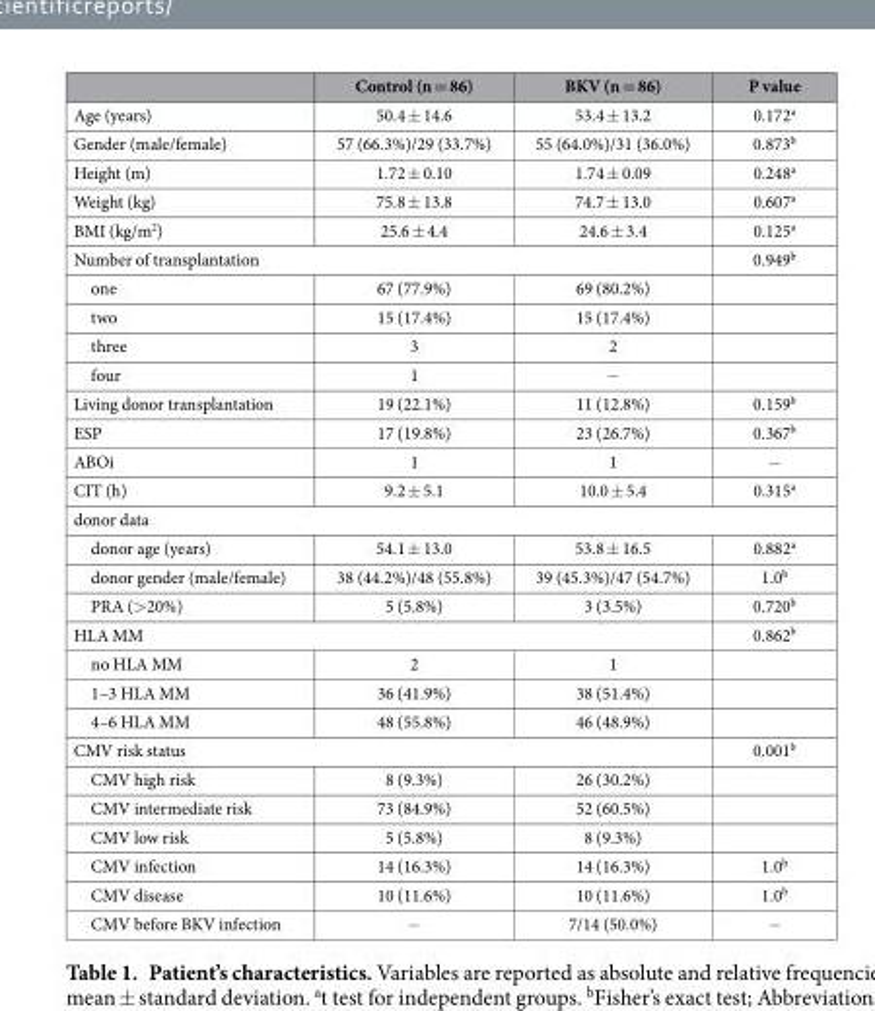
<table><thead><tr><td></td><td>Control (n = 86)</td><td>BKV (n = 86)</td><td>P value</td></tr></thead><tbody><tr><td>Age (years)</td><td>50.4 ± 14.6</td><td>53.4 ± 13.2</td><td>0.172<sup>a</sup></td></tr><tr><td>Gender (male/female)</td><td>57 (66.3%)/29 (33.7%)</td><td>55 (64.0%)/31 (36.0%)</td><td>0.873<sup>b</sup></td></tr><tr><td>Height (m)</td><td>1.72 ± 0.10</td><td>1.74 ± 0.09</td><td>0.248<sup>a</sup></td></tr><tr><td>Weight (kg)</td><td>75.8 ± 13.8</td><td>74.7 ± 13.0</td><td>0.607<sup>a</sup></td></tr><tr><td>BMI (kg/m<sup>2</sup>)</td><td>25.6 ± 4.4</td><td>24.6 ± 3.4</td><td>0.125<sup>a</sup></td></tr><tr><td colspan="3">Number of transplantation</td><td>0.949<sup>b</sup></td></tr><tr><td>one</td><td>67 (77.9%)</td><td>69 (80.2%)</td><td></td></tr><tr><td>two</td><td>15 (17.4%)</td><td>15 (17.4%)</td><td></td></tr><tr><td>three</td><td>3</td><td>2</td><td></td></tr><tr><td>four</td><td>1</td><td>−</td><td></td></tr><tr><td>Living donor transplantation</td><td>19 (22.1%)</td><td>11 (12.8%)</td><td>0.159<sup>b</sup></td></tr><tr><td>ESP</td><td>17 (19.8%)</td><td>23 (26.7%)</td><td>0.367<sup>b</sup></td></tr><tr><td>ABOi</td><td>1</td><td>1</td><td>−</td></tr><tr><td>CIT (h)</td><td>9.2 ± 5.1</td><td>10.0 ± 5.4</td><td>0.315<sup>a</sup></td></tr><tr><td colspan="4">donor data</td></tr><tr><td>donor age (years)</td><td>54.1 ± 13.0</td><td>53.8 ± 16.5</td><td>0.882<sup>a</sup></td></tr><tr><td>donor gender (male/female)</td><td>38 (44.2%)/48 (55.8%)</td><td>39 (45.3%)/47 (54.7%)</td><td>1.0<sup>b</sup></td></tr><tr><td>PRA (&gt; 20%)</td><td>5 (5.8%)</td><td>3 (3.5%)</td><td>0.720<sup>b</sup></td></tr><tr><td colspan="3">HLA MM</td><td>0.862<sup>b</sup></td></tr><tr><td>no HLA MM</td><td>2</td><td>1</td><td></td></tr><tr><td>1–3 HLA MM</td><td>36 (41.9%)</td><td>38 (51.4%)</td><td></td></tr><tr><td>4–6 HLA MM</td><td>48 (55.8%)</td><td>46 (48.9%)</td><td></td></tr><tr><td colspan="3">CMV risk status</td><td>0.001<sup>b</sup></td></tr><tr><td>CMV high risk</td><td>8 (9.3%)</td><td>26 (30.2%)</td><td></td></tr><tr><td>CMV intermediate risk</td><td>73 (84.9%)</td><td>52 (60.5%)</td><td></td></tr><tr><td>CMV low risk</td><td>5 (5.8%)</td><td>8 (9.3%)</td><td></td></tr><tr><td>CMV infection</td><td>14 (16.3%)</td><td>14 (16.3%)</td><td>1.0<sup>b</sup></td></tr><tr><td>CMV disease</td><td>10 (11.6%)</td><td>10 (11.6%)</td><td>1.0<sup>b</sup></td></tr><tr><td>CMV before BKV infection</td><td>−</td><td>7/14 (50.0%)</td><td>−</td></tr></tbody></table>